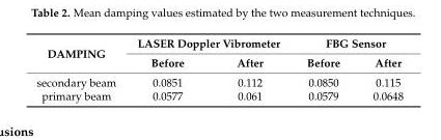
<table><thead><tr><td rowspan="2">DAMPING</td><td colspan="2">LASER Doppler Vibrometer</td><td colspan="2">FBG Sensor</td></tr><tr><td>Before</td><td>After</td><td>Before</td><td>After</td></tr></thead><tbody><tr><td>secondary beam</td><td>0.0851</td><td>0.112</td><td>0.0850</td><td>0.115</td></tr><tr><td>primary beam</td><td>0.0577</td><td>0.061</td><td>0.0579</td><td>0.0648</td></tr></tbody></table>